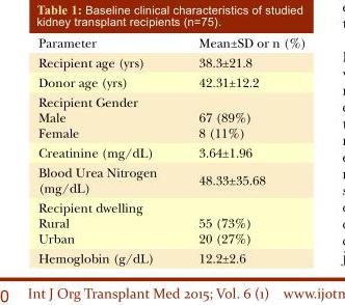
<table><thead><tr><td>Parameter</td><td>Mean±SD or n (%)</td></tr></thead><tbody><tr><td>Recipient age (yrs)</td><td>38.3±21.8</td></tr><tr><td>Donor age (yrs)</td><td>42.31±12.2</td></tr><tr><td colspan="2">Recipient Gender</td></tr><tr><td>Male Female</td><td>67 (89%) 8 (11%)</td></tr><tr><td>Creatinine (mg/dL)</td><td>3.64±1.96</td></tr><tr><td>Blood Urea Nitrogen (mg/dL)</td><td>48.33±35.68</td></tr><tr><td colspan="2">Recipient dwelling</td></tr><tr><td>Rural Urban</td><td>55 (73%) 20 (27%)</td></tr><tr><td>Hemoglobin (g/dL)</td><td>12.2±2.6</td></tr></tbody></table>